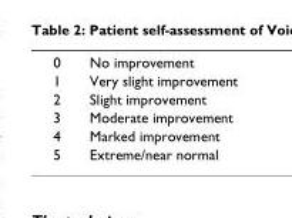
<table><tbody><tr><td>0</td><td>No improvement</td></tr><tr><td>1</td><td>Very slight improvement</td></tr><tr><td>2</td><td>Slight improvement</td></tr><tr><td>3</td><td>Moderate improvement</td></tr><tr><td>4</td><td>Marked improvement</td></tr><tr><td>5</td><td>Extreme/near normal</td></tr></tbody></table>